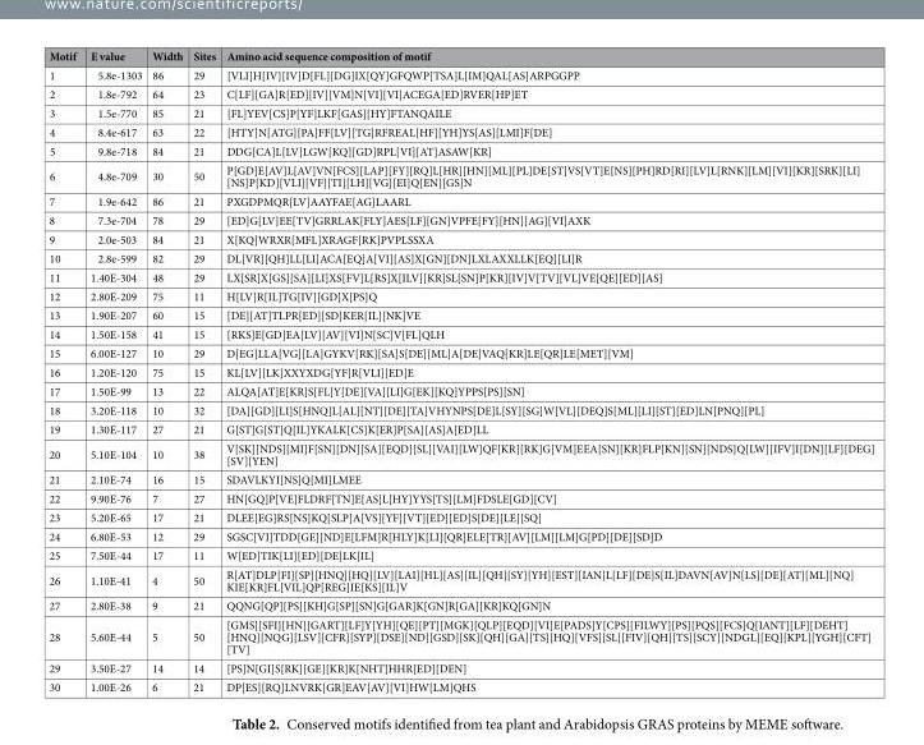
<table><thead><tr><td>Motif</td><td>E value</td><td>Width</td><td>Sites</td><td>Amino acid sequence composition of motif</td></tr></thead><tbody><tr><td>1</td><td>5.8e-1303</td><td>86</td><td>29</td><td>[VLI]H[IV][IV]D[FL][DG]IX[QY]GFQWP[TSA]L[IM]QAL[AS]ARPGGPP</td></tr><tr><td>2</td><td>1.8e-792</td><td>64</td><td>23</td><td>C[LF][GA]R[ED][IV][VM]N[VI][VI]ACEGA[ED]RVER[HP]ET</td></tr><tr><td>3</td><td>1.5e-770</td><td>85</td><td>21</td><td>[FL]YEV[CS]P[YF]LKF[GAS][HY]FTANQAILE</td></tr><tr><td>4</td><td>8.4e-617</td><td>63</td><td>22</td><td>[HTY]N[ATG][PA]FF[LV][TG]RFREAL[HF][YH]YS[AS][LMI]F[DE]</td></tr><tr><td>5</td><td>9.8e-718</td><td>84</td><td>21</td><td>DDG[CA]L[LV]LGW[KQ][GD]RPL[VI][AT]ASAW[KR]</td></tr><tr><td>6</td><td>4.8e-709</td><td>30</td><td>50</td><td>P[GD]E[AV]L[AV]VN[FCS][LAP][FY][RQ]L[HR][HN][ML][PL]DE[ST]VS[VT]E[NS][PH]RD[RI][LV]L[RNK][LM][VI][KR][SRK][LI] [NS]P[KD][VLI][VF][TI][LH][VG][EI]Q[EN][GS]N</td></tr><tr><td>7</td><td>1.9e-642</td><td>86</td><td>21</td><td>PXGDPMQR[LV]AAYFAE[AG]LAARL</td></tr><tr><td>8</td><td>7.3e-704</td><td>78</td><td>29</td><td>[ED]G[LV]EE[TV]GRRLAK[FLY]AES[LF][GN]VPFE[FY][HN][AG][VI]AXK</td></tr><tr><td>9</td><td>2.0e-503</td><td>84</td><td>21</td><td>X[KQ]WRXR[MFL]XRAGF[RK]PVPLSSXA</td></tr><tr><td>10</td><td>2.8e-599</td><td>82</td><td>29</td><td>DL[VR][QH]LL[LI]ACA[EQ]A[VI][AS]X[GN][DN]LXLAXXLLK[EQ][LI]R</td></tr><tr><td>11</td><td>1.40E-304</td><td>48</td><td>29</td><td>LX[SR]X[GS][SA][LI]XS[FV]L[RS]X[ILV][KR]SL[SN]P[KR][IV]V[TV][VL]VE[QE][ED][AS]</td></tr><tr><td>12</td><td>2.80E-209</td><td>75</td><td>11</td><td>H[LV]R[IL]TG[IV][GD]X[PS]Q</td></tr><tr><td>13</td><td>1.90E-207</td><td>60</td><td>15</td><td>[DE][AT]TLPR[ED][SD]KER[IL][NK]VE</td></tr><tr><td>14</td><td>1.50E-158</td><td>41</td><td>15</td><td>[RKS]E[GD]EA[LV][AV][VI]N[SC]V[FL]QLH</td></tr><tr><td>15</td><td>6.00E-127</td><td>10</td><td>29</td><td>D[EG]LLA[VG][LA]GYKV[RK][SA]S[DE][ML]A[DE]VAQ[KR]LE[QR]LE[MET][VM]</td></tr><tr><td>16</td><td>1.20E-120</td><td>75</td><td>15</td><td>KL[LV][LK]XXYXDG[YF]R[VLI][ED]E</td></tr><tr><td>17</td><td>1.50E-99</td><td>13</td><td>22</td><td>ALQA[AT]E[KR]S[FL]Y[DE][VA][LI]G[EK][KQ]YPPS[PS][SN]</td></tr><tr><td>18</td><td>3.20E-118</td><td>10</td><td>32</td><td>[DA][GD][LI]S[HNQ]L[AL][NT][DE][TA]VHYNPS[DE]L[SY][SG]W[VL][DEQ]S[ML][LI][ST][ED]LN[PNQ][PL]</td></tr><tr><td>19</td><td>1.30E-117</td><td>27</td><td>21</td><td>G[ST]G[ST]Q[IL]YKALK[CS]K[ER]P[SA][AS]A[ED]LL</td></tr><tr><td>20</td><td>5.10E-104</td><td>10</td><td>38</td><td>V[SK][NDS][MI]F[SN][DN][SA][EQD][SL][VAI][LW]QF[KR][RK]G[VM]EEA[SN][KR]FLP[KN][SN][NDS]Q[LW][IFV]I[DN][LF][DEG] [SV][YEN]</td></tr><tr><td>21</td><td>2.10E-74</td><td>16</td><td>15</td><td>SDAVLKYI[NS]Q[MI]LMEE</td></tr><tr><td>22</td><td>9.90E-76</td><td>7</td><td>27</td><td>HN[GQ]P[VE]FLDRF[TN]E[AS]L[HY]YYS[TS][LM]FDSLE[GD][CV]</td></tr><tr><td>23</td><td>5.20E-65</td><td>17</td><td>21</td><td>DLEE[EG]RS[NS]KQ[SLP]A[VS][YF][VT][ED][ED]S[DE][LE][SQ]</td></tr><tr><td>24</td><td>6.80E-53</td><td>12</td><td>29</td><td>SGSC[VI]TDD[GE][ND]E[LFM]R[HLY]K[LI][QR]ELE[TR][AV][LM][LM]G[PD][DE][SD]D</td></tr><tr><td>25</td><td>7.50E-44</td><td>17</td><td>11</td><td>W[ED]TIK[LI][ED][DE]LK[IL]</td></tr><tr><td>26</td><td>1.10E-41</td><td>4</td><td>50</td><td>R[AT]DLP[FI][SP][HNQ][HQ][LV][LAI][HL][AS][IL][QH][SY][YH][EST][IAN]L[LF][DE]S[IL]DAVN[AV]N[LS][DE][AT][ML][NQ] KIE[KR]FL[VIL]QP[REG]IE[KS][IL]V</td></tr><tr><td>27</td><td>2.80E-38</td><td>9</td><td>21</td><td>QQNG[QP][PS][KH]G[SP][SN]G[GAR]K[GN]R[GA][KR]KQ[GN]N</td></tr><tr><td>28</td><td>5.60E-44</td><td>5</td><td>50</td><td>[GMS][SFI][HN][GART][LF]Y[YH][QE][PT][MGK][QLP][EQD][VI]E[PADS]Y[CPS][FILWY][PS][PQS][FCS]Q[IANT][LF][DEHT] [HNQ][NQG][LSV][CFR][SYP][DSE][ND][GSD][SK][QH][GA][TS][HQ][VFS][SL][FIV][QH][TS][SCY][NDGL][EQ][KPL][YGH][CFT] [TV]</td></tr><tr><td>29</td><td>3.50E-27</td><td>14</td><td>14</td><td>[PS]N[GI]S[RK][GE][KR]K[NHT]HHR[ED][DEN]</td></tr><tr><td>30</td><td>1.00E-26</td><td>6</td><td>21</td><td>DP[ES][RQ]LNVRK[GR]EAV[AV][VI]HW[LM]QHS</td></tr></tbody></table>